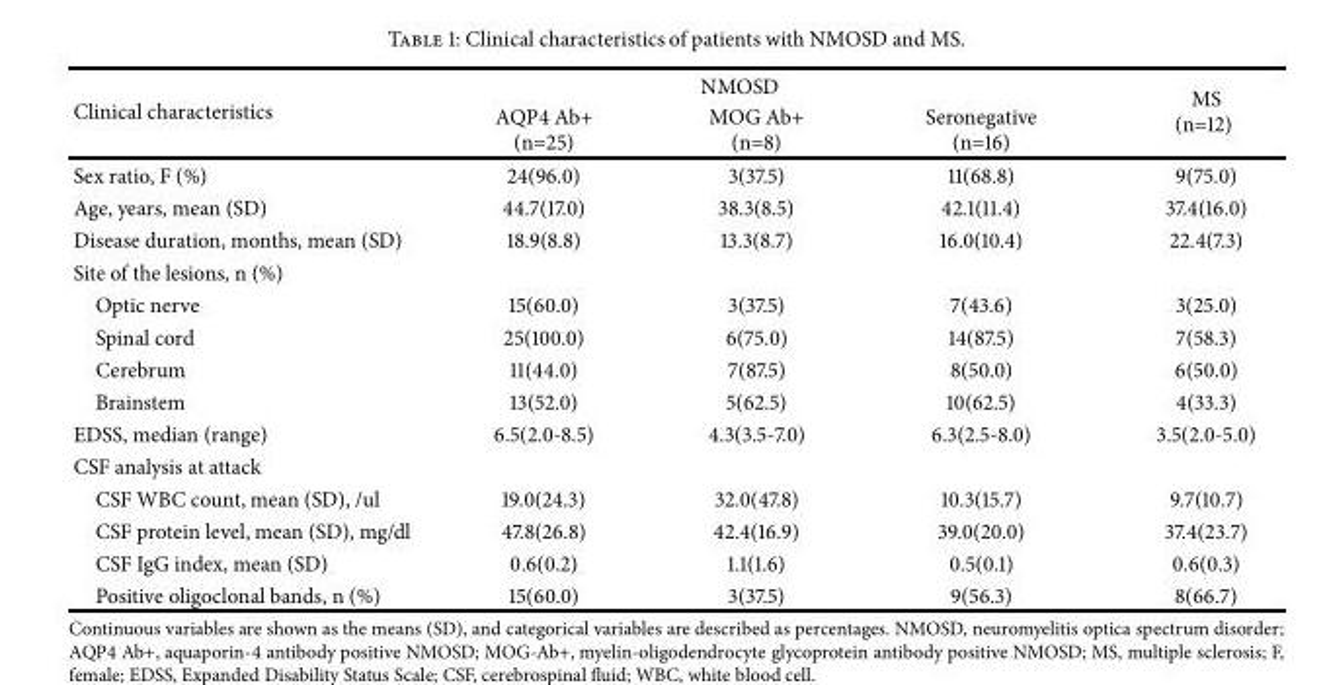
<table><thead><tr><td rowspan="2">Clinical characteristics</td><td colspan="3">NMOSD</td><td rowspan="2">MS (n=12)</td></tr><tr><td>AQP4 Ab+ (n=25)</td><td>MOG Ab+ (n=8)</td><td>Seronegative (n=16)</td></tr></thead><tbody><tr><td>Sex ratio, F (%)</td><td>24(96.0)</td><td>3(37.5)</td><td>11(68.8)</td><td>9(75.0)</td></tr><tr><td>Age, years, mean (SD)</td><td>44.7(17.0)</td><td>38.3(8.5)</td><td>42.1(11.4)</td><td>37.4(16.0)</td></tr><tr><td>Disease duration, months, mean (SD)</td><td>18.9(8.8)</td><td>13.3(8.7)</td><td>16.0(10.4)</td><td>22.4(7.3)</td></tr><tr><td colspan="5">Site of the lesions, n (%)</td></tr><tr><td>Optic nerve</td><td>15(60.0)</td><td>3(37.5)</td><td>7(43.6)</td><td>3(25.0)</td></tr><tr><td>Spinal cord</td><td>25(100.0)</td><td>6(75.0)</td><td>14(87.5)</td><td>7(58.3)</td></tr><tr><td>Cerebrum</td><td>11(44.0)</td><td>7(87.5)</td><td>8(50.0)</td><td>6(50.0)</td></tr><tr><td>Brainstem</td><td>13(52.0)</td><td>5(62.5)</td><td>10(62.5)</td><td>4(33.3)</td></tr><tr><td>EDSS, median (range)</td><td>6.5(2.0-8.5)</td><td>4.3(3.5-7.0)</td><td>6.3(2.5-8.0)</td><td>3.5(2.0-5.0)</td></tr><tr><td colspan="5">CSF analysis at attack</td></tr><tr><td>CSF WBC count, mean (SD), /ul</td><td>19.0(24.3)</td><td>32.0(47.8)</td><td>10.3(15.7)</td><td>9.7(10.7)</td></tr><tr><td>CSF protein level, mean (SD), mg/dl</td><td>47.8(26.8)</td><td>42.4(16.9)</td><td>39.0(20.0)</td><td>37.4(23.7)</td></tr><tr><td>CSF IgG index, mean (SD)</td><td>0.6(0.2)</td><td>1.1(1.6)</td><td>0.5(0.1)</td><td>0.6(0.3)</td></tr><tr><td>Positive oligoclonal bands, n (%)</td><td>15(60.0)</td><td>3(37.5)</td><td>9(56.3)</td><td>8(66.7)</td></tr></tbody></table>